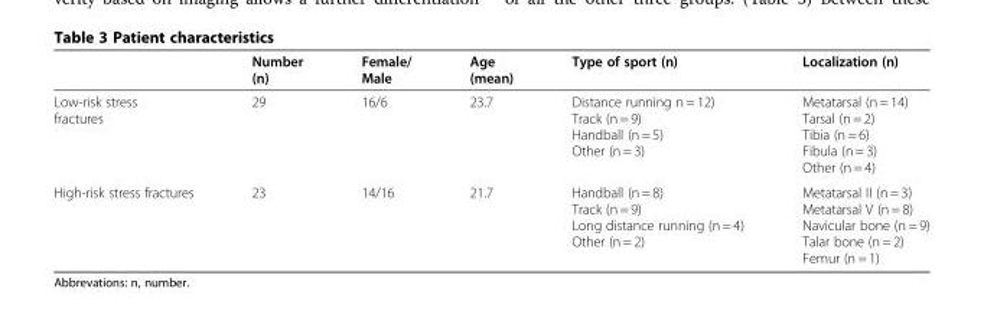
<table><thead><tr><td></td><td>Number (n)</td><td>Female/ Male</td><td>Age (mean)</td><td>Type of sport (n)</td><td>Localization (n)</td></tr></thead><tbody><tr><td>Low-risk stress fractures</td><td>29</td><td>16/6</td><td>23.7</td><td>Distance running n = 12) Track (n = 9) Handball (n = 5) Other (n = 3)</td><td>Metatarsal (n = 14) Tarsal (n = 2) Tibia (n = 6) Fibula (n = 3) Other (n = 4)</td></tr><tr><td>High-risk stress fractures</td><td>23</td><td>14/16</td><td>21.7</td><td>Handball (n = 8) Track (n = 9) Long distance running (n = 4) Other (n = 2)</td><td>Metatarsal II (n = 3) Metatarsal V (n = 8) Navicular bone (n = 9) Talar bone (n = 2) Femur (n = 1)</td></tr></tbody></table>